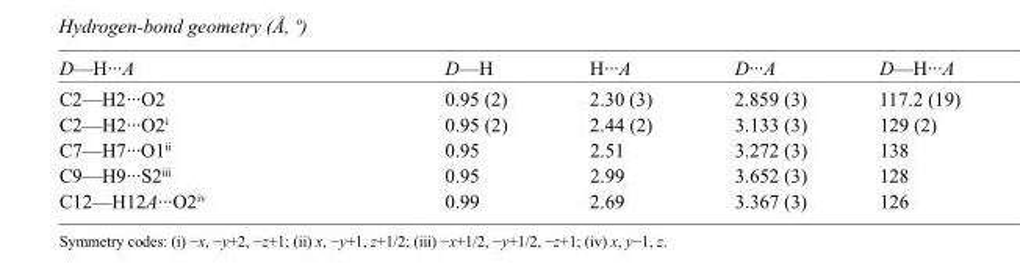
<table><tbody><tr><td>D—H···A</td><td>D—H</td><td>H···A</td><td>D···A</td><td>D—H···A</td></tr><tr><td>C2—H2···O2</td><td>0.95 (2)</td><td>2.30 (3)</td><td>2.859 (3)</td><td>117.2 (19)</td></tr><tr><td>C2—H2···O2<sup>i</sup></td><td>0.95 (2)</td><td>2.44 (2)</td><td>3.133 (3)</td><td>129 (2)</td></tr><tr><td>C7—H7···O1<sup>ii</sup></td><td>0.95</td><td>2.51</td><td>3.272 (3)</td><td>138</td></tr><tr><td>C9—H9···S2<sup>iii</sup></td><td>0.95</td><td>2.99</td><td>3.652 (3)</td><td>128</td></tr><tr><td>C12—H12A···O2<sup>iv</sup></td><td>0.99</td><td>2.69</td><td>3.367 (3)</td><td>126</td></tr></tbody></table>